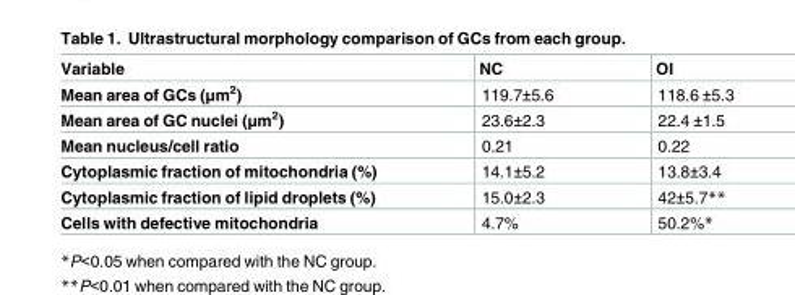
<table><thead><tr><td>Variable</td><td>NC</td><td>OI</td></tr></thead><tbody><tr><td>Mean area of GCs (μm<sup>2</sup>)</td><td>119.7±5.6</td><td>118.6 ±5.3</td></tr><tr><td>Mean area of GC nuclei (μm<sup>2</sup>)</td><td>23.6±2.3</td><td>22.4 ±1.5</td></tr><tr><td>Mean nucleus/cell ratio</td><td>0.21</td><td>0.22</td></tr><tr><td>Cytoplasmic fraction of mitochondria (%)</td><td>14.1±5.2</td><td>13.8±3.4</td></tr><tr><td>Cytoplasmic fraction of lipid droplets (%)</td><td>15.0±2.3</td><td>42±5.7**</td></tr><tr><td>Cells with defective mitochondria</td><td>4.7%</td><td>50.2%*</td></tr></tbody></table>